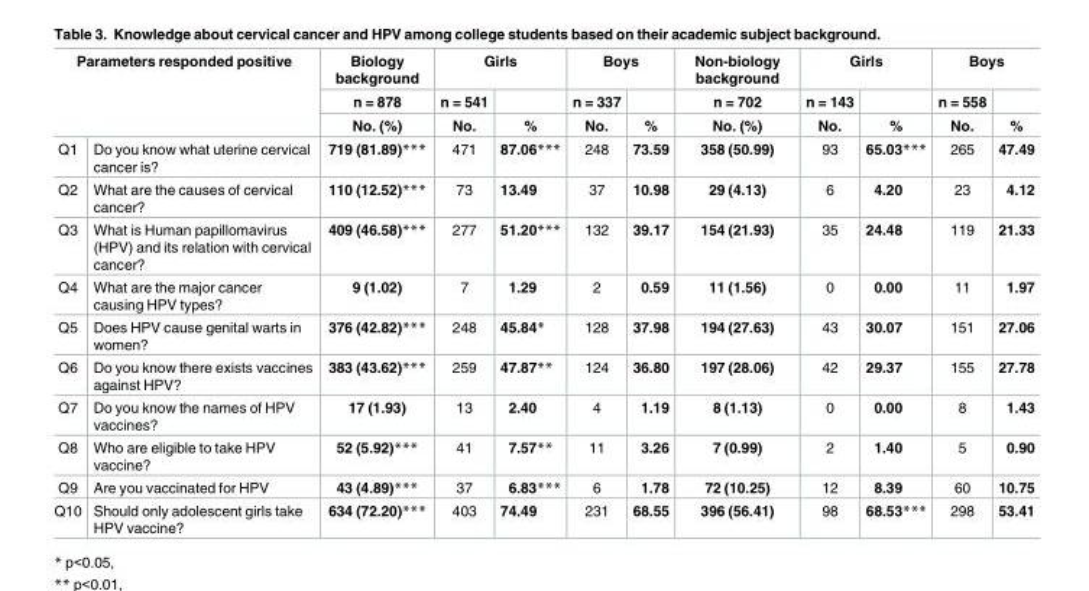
<table><thead><tr><td rowspan="3" colspan="2">Parameters responded positive</td><td rowspan="4">Biology background n = 878 No. (%) 719 (81.89)***</td><td colspan="2">Girls</td><td colspan="2">Boys</td><td rowspan="4">Non-biology background n = 702 No. (%) 358 (50.99)</td><td colspan="2">Girls</td><td colspan="2">Boys</td></tr><tr><td rowspan="3">n = 541 No. 471</td><td rowspan="3">% 87.06***</td><td rowspan="3">n = 337 No. 248</td><td rowspan="3">% 73.59</td><td rowspan="3">n = 143 No. 93</td><td rowspan="3">% 65.03***</td><td rowspan="3">n = 558 No. 265</td><td rowspan="3">% 47.49</td></tr><tr></tr><tr><td>Q1</td><td>Do you know what uterine cervical cancer is?</td></tr></thead><tbody><tr><td>Q2</td><td>What are the causes of cervical cancer?</td><td>110 (12.52)***</td><td>73</td><td>13.49</td><td>37</td><td>10.98</td><td>29 (4.13)</td><td>6</td><td>4.20</td><td>23</td><td>4.12</td></tr><tr><td>Q3</td><td>What is Human papillomavirus (HPV) and its relation with cervical cancer?</td><td>409 (46.58)***</td><td>277</td><td>51.20***</td><td>132</td><td>39.17</td><td>154 (21.93)</td><td>35</td><td>24.48</td><td>119</td><td>21.33</td></tr><tr><td>Q4</td><td>What are the major cancer causing HPV types?</td><td>9 (1.02)</td><td>7</td><td>1.29</td><td>2</td><td>0.59</td><td>11 (1.56)</td><td>0</td><td>0.00</td><td>11</td><td>1.97</td></tr><tr><td>Q5</td><td>Does HPV cause genital warts in women?</td><td>376 (42.82)***</td><td>248</td><td>45.84*</td><td>128</td><td>37.98</td><td>194 (27.63)</td><td>43</td><td>30.07</td><td>151</td><td>27.06</td></tr><tr><td>Q6</td><td>Do you know there exists vaccines against HPV?</td><td>383 (43.62)***</td><td>259</td><td>47.87**</td><td>124</td><td>36.80</td><td>197 (28.06)</td><td>42</td><td>29.37</td><td>155</td><td>27.78</td></tr><tr><td>Q7</td><td>Do you know the names of HPV vaccines?</td><td>17 (1.93)</td><td>13</td><td>2.40</td><td>4</td><td>1.19</td><td>8 (1.13)</td><td>0</td><td>0.00</td><td>8</td><td>1.43</td></tr><tr><td>Q8</td><td>Who are eligible to take HPV vaccine?</td><td>52 (5.92)***</td><td>41</td><td>7.57**</td><td>11</td><td>3.26</td><td>7 (0.99)</td><td>2</td><td>1.40</td><td>5</td><td>0.90</td></tr><tr><td>Q9</td><td>Are you vaccinated for HPV</td><td>43 (4.89)***</td><td>37</td><td>6.83***</td><td>6</td><td>1.78</td><td>72 (10.25)</td><td>12</td><td>8.39</td><td>60</td><td>10.75</td></tr><tr><td>Q10</td><td>Should only adolescent girls take HPV vaccine?</td><td>634 (72.20)***</td><td>403</td><td>74.49</td><td>231</td><td>68.55</td><td>396 (56.41)</td><td>98</td><td>68.53***</td><td>298</td><td>53.41</td></tr></tbody></table>